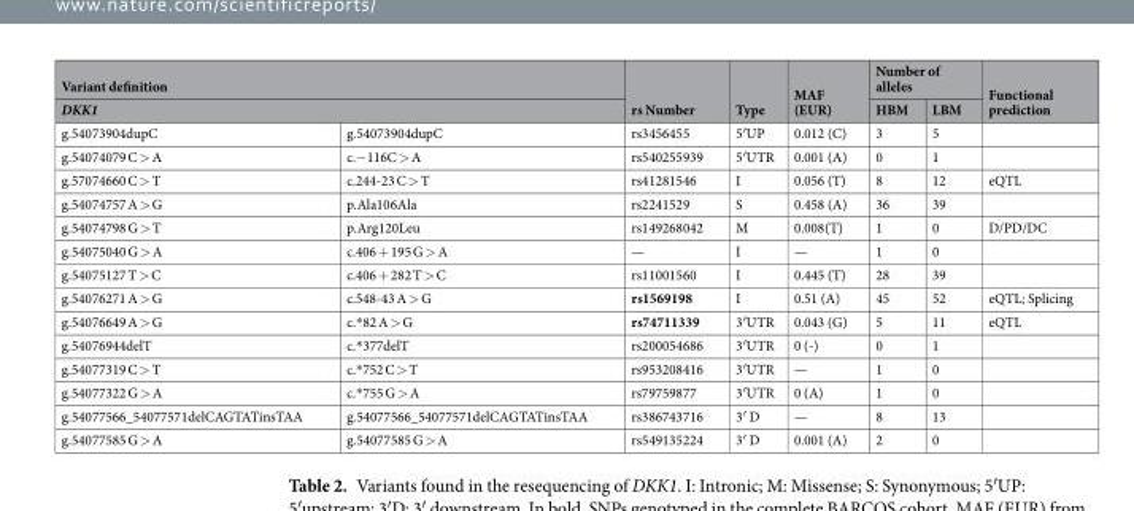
<table><thead><tr><td rowspan="2" colspan="2">Variant definition DKK1</td><td rowspan="3">rs Number rs3456455</td><td rowspan="3">Type 5′UP</td><td rowspan="3">MAF (EUR) 0.012 (C)</td><td colspan="2">Number of alleles</td><td rowspan="3">Functional prediction</td></tr><tr><td rowspan="2">HBM 3</td><td rowspan="2">LBM 5</td></tr><tr><td>g.54073904dupC</td><td>g.54073904dupC</td></tr></thead><tbody><tr><td>g.54074079 C &gt; A</td><td>c.−116C &gt; A</td><td>rs540255939</td><td>5′UTR</td><td>0.001 (A)</td><td>0</td><td>1</td><td></td></tr><tr><td>g.57074660 C &gt; T</td><td>c.244-23 C &gt; T</td><td>rs41281546</td><td>I</td><td>0.056 (T)</td><td>8</td><td>12</td><td>eQTL</td></tr><tr><td>g.54074757 A &gt; G</td><td>p.Ala106Ala</td><td>rs2241529</td><td>S</td><td>0.458 (A)</td><td>36</td><td>39</td><td></td></tr><tr><td>g.54074798 G &gt; T</td><td>p.Arg120Leu</td><td>rs149268042</td><td>M</td><td>0.008(T)</td><td>1</td><td>0</td><td>D/PD/DC</td></tr><tr><td>g.54075040 G &gt; A</td><td>c.406 + 195 G &gt; A</td><td>—</td><td>I</td><td>—</td><td>1</td><td>0</td><td></td></tr><tr><td>g.54075127 T &gt; C</td><td>c.406 + 282 T &gt; C</td><td>rs11001560</td><td>I</td><td>0.445 (T)</td><td>28</td><td>39</td><td></td></tr><tr><td>g.54076271 A &gt; G</td><td>c.548-43 A &gt; G</td><td>rs1569198</td><td>I</td><td>0.51 (A)</td><td>45</td><td>52</td><td>eQTL; Splicing</td></tr><tr><td>g.54076649 A &gt; G</td><td>c.*82 A &gt; G</td><td>rs74711339</td><td>3′UTR</td><td>0.043 (G)</td><td>5</td><td>11</td><td>eQTL</td></tr><tr><td>g.54076944delT</td><td>c.*377delT</td><td>rs200054686</td><td>3′UTR</td><td>0 (-)</td><td>0</td><td>1</td><td></td></tr><tr><td>g.54077319 C &gt; T</td><td>c.*752 C &gt; T</td><td>rs953208416</td><td>3′UTR</td><td>—</td><td>1</td><td>0</td><td></td></tr><tr><td>g.54077322 G &gt; A</td><td>c.*755 G &gt; A</td><td>rs79759877</td><td>3′UTR</td><td>0 (A)</td><td>1</td><td>0</td><td></td></tr><tr><td>g.54077566_54077571delCAGTATinsTAA</td><td>g.54077566_54077571delCAGTATinsTAA</td><td>rs386743716</td><td>3′ D</td><td>—</td><td>8</td><td>13</td><td></td></tr><tr><td>g.54077585 G &gt; A</td><td>g.54077585 G &gt; A</td><td>rs549135224</td><td>3′ D</td><td>0.001 (A)</td><td>2</td><td>0</td><td></td></tr></tbody></table>